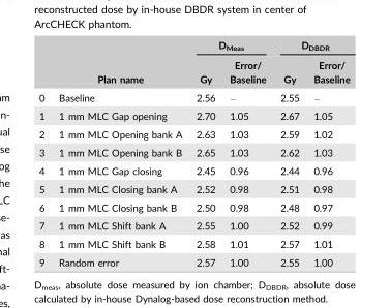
<table><thead><tr><td rowspan="2"></td><td rowspan="2">Plan name</td><td colspan="2">D<sub>Meas</sub></td><td colspan="2">D<sub>DBDR</sub></td></tr><tr><td>Gy</td><td>Error/ Baseline</td><td>Gy</td><td>Error/ Baseline</td></tr></thead><tbody><tr><td>0</td><td>Baseline</td><td>2.56</td><td>–</td><td>2.55</td><td>–</td></tr><tr><td>1</td><td>1 mm MLC Gap opening</td><td>2.70</td><td>1.05</td><td>2.67</td><td>1.05</td></tr><tr><td>2</td><td>1 mm MLC Opening bank A</td><td>2.63</td><td>1.03</td><td>2.59</td><td>1.02</td></tr><tr><td>3</td><td>1 mm MLC Opening bank B</td><td>2.65</td><td>1.03</td><td>2.62</td><td>1.03</td></tr><tr><td>4</td><td>1 mm MLC Gap closing</td><td>2.45</td><td>0.96</td><td>2.44</td><td>0.96</td></tr><tr><td>5</td><td>1 mm MLC Closing bank A</td><td>2.52</td><td>0.98</td><td>2.51</td><td>0.98</td></tr><tr><td>6</td><td>1 mm MLC Closing bank B</td><td>2.50</td><td>0.98</td><td>2.48</td><td>0.97</td></tr><tr><td>7</td><td>1 mm MLC Shift bank A</td><td>2.55</td><td>1.00</td><td>2.52</td><td>0.99</td></tr><tr><td>8</td><td>1 mm MLC Shift bank B</td><td>2.58</td><td>1.01</td><td>2.57</td><td>1.01</td></tr><tr><td>9</td><td>Random error</td><td>2.57</td><td>1.00</td><td>2.55</td><td>1.00</td></tr></tbody></table>